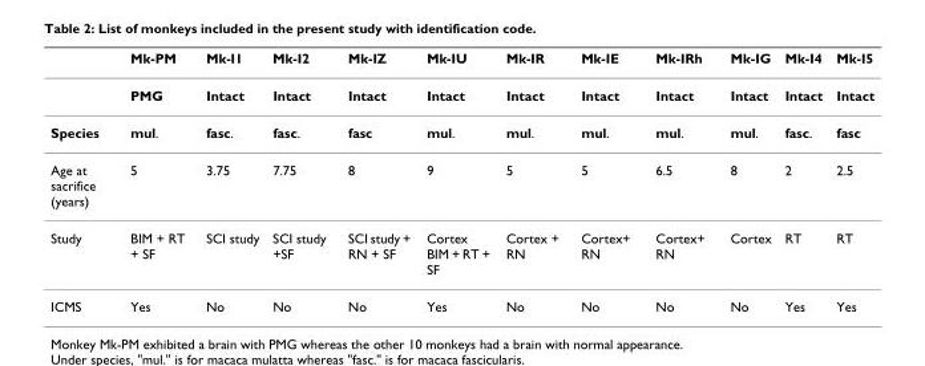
<table><thead><tr><td></td><td>Mk-PM</td><td>Mk-I1</td><td>Mk-I2</td><td>Mk-IZ</td><td>Mk-IU</td><td>Mk-IR</td><td>Mk-IE</td><td>Mk-IRh</td><td>Mk-IG</td><td>Mk-I4</td><td>Mk-I5</td></tr></thead><tbody><tr><td></td><td>PMG</td><td>Intact</td><td>Intact</td><td>Intact</td><td>Intact</td><td>Intact</td><td>Intact</td><td>Intact</td><td>Intact</td><td>Intact</td><td>Intact</td></tr><tr><td>Species</td><td>mul.</td><td>fasc.</td><td>fasc.</td><td>fasc</td><td>mul.</td><td>mul.</td><td>mul.</td><td>mul.</td><td>mul.</td><td>fasc.</td><td>fasc</td></tr><tr><td>Age at sacrifice (years)</td><td>5</td><td>3.75</td><td>7.75</td><td>8</td><td>9</td><td>5</td><td>5</td><td>6.5</td><td>8</td><td>2</td><td>2.5</td></tr><tr><td>Study</td><td>BIM + RT + SF</td><td>SCI study</td><td>SCI study +SF</td><td>SCI study + RN + SF</td><td>Cortex BIM + RT + SF</td><td>Cortex + RN</td><td>Cortex+ RN</td><td>Cortex+ RN</td><td>Cortex</td><td>RT</td><td>RT</td></tr><tr><td>ICMS</td><td>Yes</td><td>No</td><td>No</td><td>No</td><td>Yes</td><td>No</td><td>No</td><td>No</td><td>No</td><td>Yes</td><td>Yes</td></tr></tbody></table>